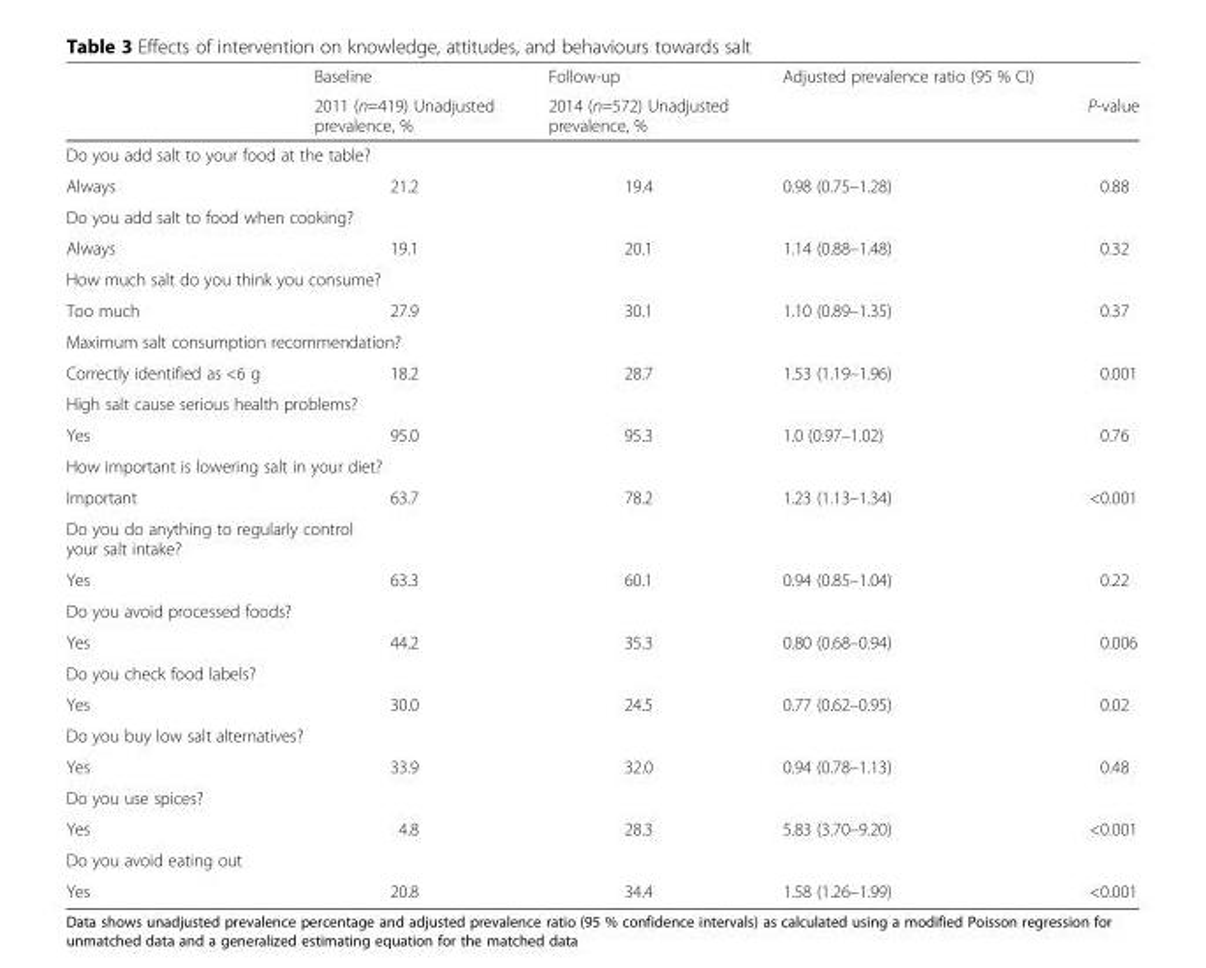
<table><thead><tr><td rowspan="2"></td><td rowspan="2">Baseline 2011 (n=419) Unadjusted prevalence, %</td><td rowspan="2">Follow-up 2014 (n=572) Unadjusted prevalence, %</td><td rowspan="2">Adjusted prevalence ratio (95 % CI)</td><td rowspan="2">P-value</td></tr><tr></tr></thead><tbody><tr><td colspan="5">Do you add salt to your food at the table?</td></tr><tr><td>Always</td><td>21.2</td><td>19.4</td><td>0.98 (0.75–1.28)</td><td>0.88</td></tr><tr><td colspan="5">Do you add salt to food when cooking?</td></tr><tr><td>Always</td><td>19.1</td><td>20.1</td><td>1.14 (0.88–1.48)</td><td>0.32</td></tr><tr><td colspan="5">How much salt do you think you consume?</td></tr><tr><td>Too much</td><td>27.9</td><td>30.1</td><td>1.10 (0.89–1.35)</td><td>0.37</td></tr><tr><td colspan="5">Maximum salt consumption recommendation?</td></tr><tr><td>Correctly identified as &lt;6 g</td><td>18.2</td><td>28.7</td><td>1.53 (1.19–1.96)</td><td>0.001</td></tr><tr><td colspan="5">High salt cause serious health problems?</td></tr><tr><td>Yes</td><td>95.0</td><td>95.3</td><td>1.0 (0.97–1.02)</td><td>0.76</td></tr><tr><td colspan="5">How important is lowering salt in your diet?</td></tr><tr><td>Important</td><td>63.7</td><td>78.2</td><td>1.23 (1.13–1.34)</td><td>&lt;0.001</td></tr><tr><td colspan="5">Do you do anything to regularly control your salt intake?</td></tr><tr><td>Yes</td><td>63.3</td><td>60.1</td><td>0.94 (0.85–1.04)</td><td>0.22</td></tr><tr><td colspan="5">Do you avoid processed foods?</td></tr><tr><td>Yes</td><td>44.2</td><td>35.3</td><td>0.80 (0.68–0.94)</td><td>0.006</td></tr><tr><td colspan="5">Do you check food labels?</td></tr><tr><td>Yes</td><td>30.0</td><td>24.5</td><td>0.77 (0.62–0.95)</td><td>0.02</td></tr><tr><td colspan="5">Do you buy low salt alternatives?</td></tr><tr><td>Yes</td><td>33.9</td><td>32.0</td><td>0.94 (0.78–1.13)</td><td>0.48</td></tr><tr><td colspan="5">Do you use spices?</td></tr><tr><td>Yes</td><td>4.8</td><td>28.3</td><td>5.83 (3.70–9.20)</td><td>&lt;0.001</td></tr><tr><td colspan="5">Do you avoid eating out</td></tr><tr><td>Yes</td><td>20.8</td><td>34.4</td><td>1.58 (1.26–1.99)</td><td>&lt;0.001</td></tr></tbody></table>